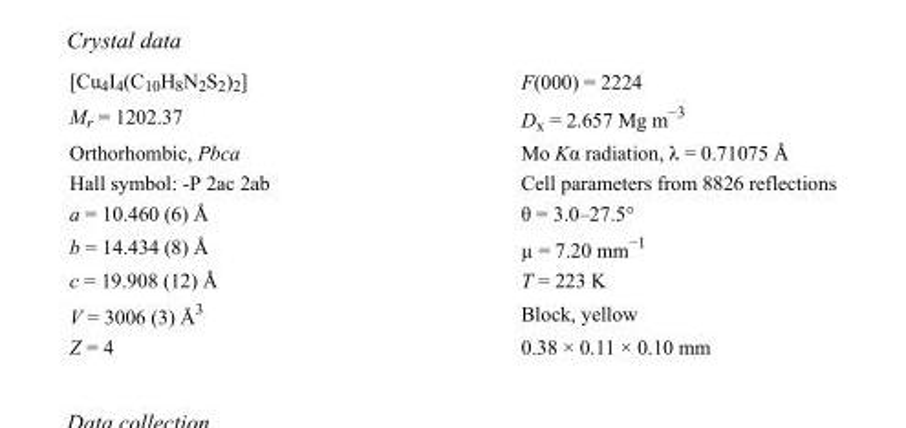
<table><tbody><tr><td>[Cu<sub>4</sub>I<sub>4</sub>(C<sub>10</sub>H<sub>8</sub>N<sub>2</sub>S<sub>2</sub>)<sub>2</sub>]</td><td>F(000) = 2224</td></tr><tr><td>M<sub>r</sub> = 1202.37</td><td>D<sub>x</sub> = 2.657 Mg m<sup>−3</sup></td></tr><tr><td>Orthorhombic, Pbca</td><td>Mo Kα radiation, λ = 0.71075 Å</td></tr><tr><td>Hall symbol: -P 2ac 2ab</td><td>Cell parameters from 8826 reflections</td></tr><tr><td>a = 10.460 (6) Å</td><td>θ = 3.0–27.5°</td></tr><tr><td>b = 14.434 (8) Å</td><td>µ = 7.20 mm<sup>−1</sup></td></tr><tr><td>c = 19.908 (12) Å</td><td>T = 223 K</td></tr><tr><td>V = 3006 (3) Å<sup>3</sup></td><td>Block, yellow</td></tr><tr><td>Z = 4</td><td>0.38 × 0.11 × 0.10 mm</td></tr></tbody></table>